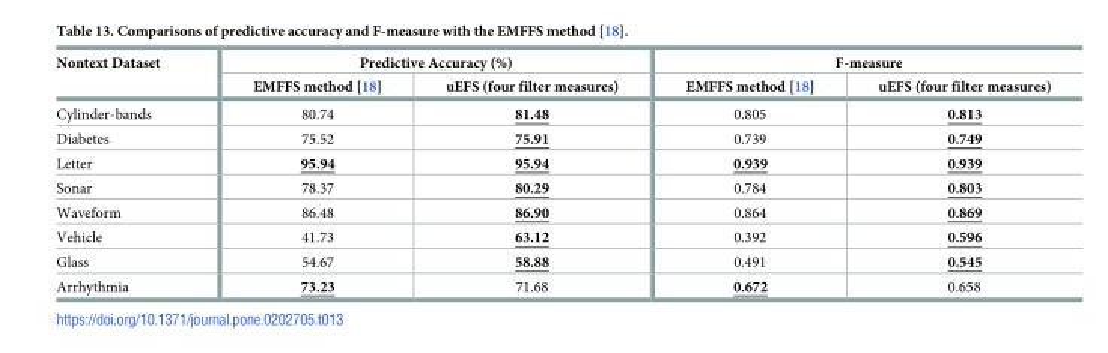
<table><thead><tr><td rowspan="2">Nontext Dataset</td><td colspan="2">Predictive Accuracy (%)</td><td colspan="2">F-measure</td></tr><tr><td>EMFFS method [18]</td><td>uEFS (four filter measures)</td><td>EMFFS method [18]</td><td>uEFS (four filter measures)</td></tr></thead><tbody><tr><td>Cylinder-bands</td><td>80.74</td><td>81.48</td><td>0.805</td><td>0.813</td></tr><tr><td>Diabetes</td><td>75.52</td><td>75.91</td><td>0.739</td><td>0.749</td></tr><tr><td>Letter</td><td>95.94</td><td>95.94</td><td>0.939</td><td>0.939</td></tr><tr><td>Sonar</td><td>78.37</td><td>80.29</td><td>0.784</td><td>0.803</td></tr><tr><td>Waveform</td><td>86.48</td><td>86.90</td><td>0.864</td><td>0.869</td></tr><tr><td>Vehicle</td><td>41.73</td><td>63.12</td><td>0.392</td><td>0.596</td></tr><tr><td>Glass</td><td>54.67</td><td>58.88</td><td>0.491</td><td>0.545</td></tr><tr><td>Arrhythmia</td><td>73.23</td><td>71.68</td><td>0.672</td><td>0.658</td></tr></tbody></table>